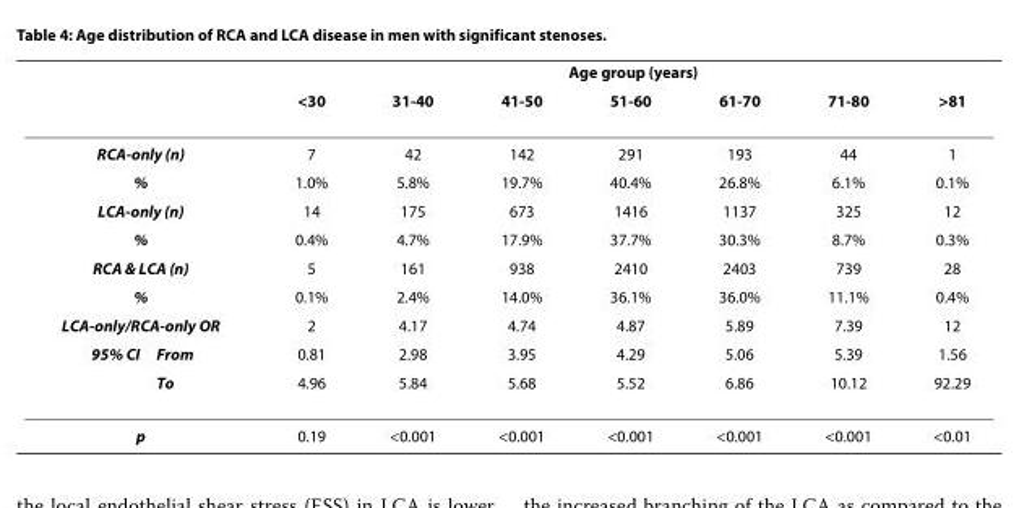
<table><thead><tr><td rowspan="2"></td><td rowspan="2"></td><td colspan="7">Age group (years)</td></tr><tr><td>&lt;30</td><td>31-40</td><td>41-50</td><td>51-60</td><td>61-70</td><td>71-80</td><td>&gt;81</td></tr></thead><tbody><tr><td colspan="2">RCA-only (n)</td><td>7</td><td>42</td><td>142</td><td>291</td><td>193</td><td>44</td><td>1</td></tr><tr><td colspan="2">%</td><td>1.0%</td><td>5.8%</td><td>19.7%</td><td>40.4%</td><td>26.8%</td><td>6.1%</td><td>0.1%</td></tr><tr><td colspan="2">LCA-only (n)</td><td>14</td><td>175</td><td>673</td><td>1416</td><td>1137</td><td>325</td><td>12</td></tr><tr><td colspan="2">%</td><td>0.4%</td><td>4.7%</td><td>17.9%</td><td>37.7%</td><td>30.3%</td><td>8.7%</td><td>0.3%</td></tr><tr><td colspan="2">RCA &amp; LCA (n)</td><td>5</td><td>161</td><td>938</td><td>2410</td><td>2403</td><td>739</td><td>28</td></tr><tr><td colspan="2">%</td><td>0.1%</td><td>2.4%</td><td>14.0%</td><td>36.1%</td><td>36.0%</td><td>11.1%</td><td>0.4%</td></tr><tr><td colspan="2">LCA-only/RCA-only OR</td><td>2</td><td>4.17</td><td>4.74</td><td>4.87</td><td>5.89</td><td>7.39</td><td>12</td></tr><tr><td rowspan="2">95% CI</td><td>From</td><td>0.81</td><td>2.98</td><td>3.95</td><td>4.29</td><td>5.06</td><td>5.39</td><td>1.56</td></tr><tr><td>To</td><td>4.96</td><td>5.84</td><td>5.68</td><td>5.52</td><td>6.86</td><td>10.12</td><td>92.29</td></tr><tr><td colspan="2">p</td><td>0.19</td><td>&lt;0.001</td><td>&lt;0.001</td><td>&lt;0.001</td><td>&lt;0.001</td><td>&lt;0.001</td><td>&lt;0.01</td></tr></tbody></table>